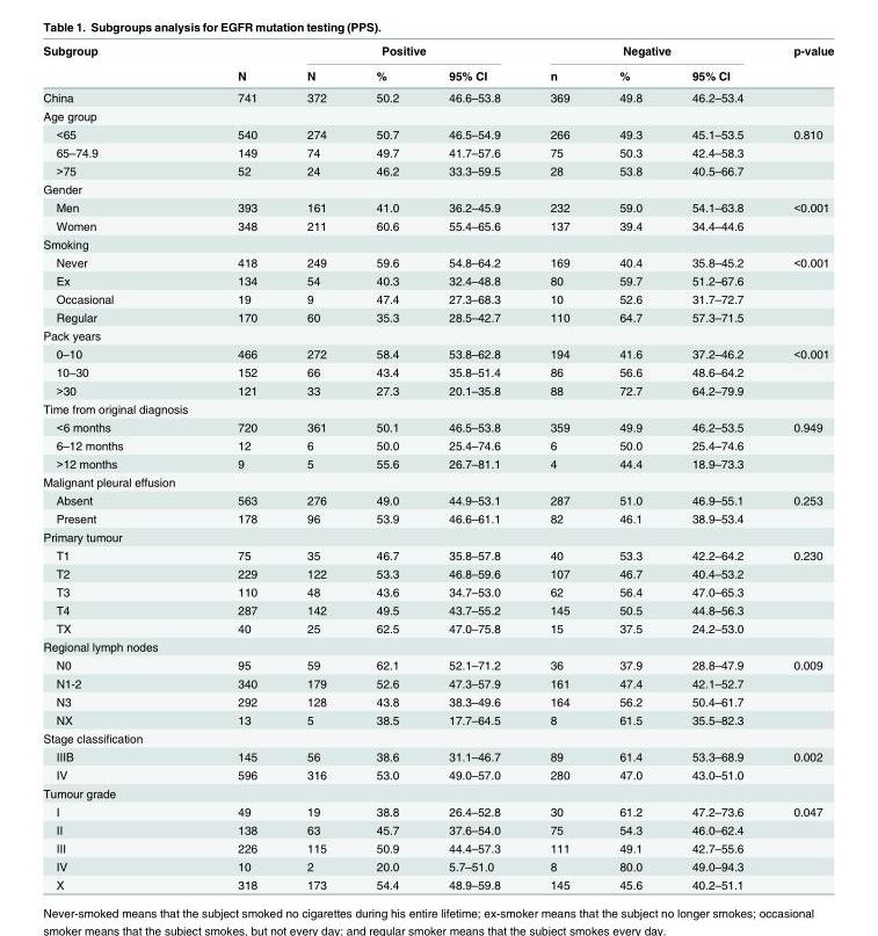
<table><thead><tr><td rowspan="2">Subgroup</td><td rowspan="2">N</td><td colspan="3">Positive</td><td colspan="3">Negative</td><td rowspan="2">p-value</td></tr><tr><td>N</td><td>%</td><td>95% CI</td><td>n</td><td>%</td><td>95% CI</td></tr></thead><tbody><tr><td>China</td><td>741</td><td>372</td><td>50.2</td><td>46.6–53.8</td><td>369</td><td>49.8</td><td>46.2–53.4</td><td></td></tr><tr><td colspan="9">Age group</td></tr><tr><td>&lt;65</td><td>540</td><td>274</td><td>50.7</td><td>46.5–54.9</td><td>266</td><td>49.3</td><td>45.1–53.5</td><td>0.810</td></tr><tr><td>65–74.9</td><td>149</td><td>74</td><td>49.7</td><td>41.7–57.6</td><td>75</td><td>50.3</td><td>42.4–58.3</td><td></td></tr><tr><td>&gt;75</td><td>52</td><td>24</td><td>46.2</td><td>33.3–59.5</td><td>28</td><td>53.8</td><td>40.5–66.7</td><td></td></tr><tr><td colspan="9">Gender</td></tr><tr><td>Men</td><td>393</td><td>161</td><td>41.0</td><td>36.2–45.9</td><td>232</td><td>59.0</td><td>54.1–63.8</td><td>&lt;0.001</td></tr><tr><td>Women</td><td>348</td><td>211</td><td>60.6</td><td>55.4–65.6</td><td>137</td><td>39.4</td><td>34.4–44.6</td><td></td></tr><tr><td colspan="9">Smoking</td></tr><tr><td>Never</td><td>418</td><td>249</td><td>59.6</td><td>54.8–64.2</td><td>169</td><td>40.4</td><td>35.8–45.2</td><td>&lt;0.001</td></tr><tr><td>Ex</td><td>134</td><td>54</td><td>40.3</td><td>32.4–48.8</td><td>80</td><td>59.7</td><td>51.2–67.6</td><td></td></tr><tr><td>Occasional</td><td>19</td><td>9</td><td>47.4</td><td>27.3–68.3</td><td>10</td><td>52.6</td><td>31.7–72.7</td><td></td></tr><tr><td>Regular</td><td>170</td><td>60</td><td>35.3</td><td>28.5–42.7</td><td>110</td><td>64.7</td><td>57.3–71.5</td><td></td></tr><tr><td colspan="9">Pack years</td></tr><tr><td>0–10</td><td>466</td><td>272</td><td>58.4</td><td>53.8–62.8</td><td>194</td><td>41.6</td><td>37.2–46.2</td><td>&lt;0.001</td></tr><tr><td>10–30</td><td>152</td><td>66</td><td>43.4</td><td>35.8–51.4</td><td>86</td><td>56.6</td><td>48.6–64.2</td><td></td></tr><tr><td>&gt;30</td><td>121</td><td>33</td><td>27.3</td><td>20.1–35.8</td><td>88</td><td>72.7</td><td>64.2–79.9</td><td></td></tr><tr><td colspan="9">Time from original diagnosis</td></tr><tr><td>&lt;6 months</td><td>720</td><td>361</td><td>50.1</td><td>46.5–53.8</td><td>359</td><td>49.9</td><td>46.2–53.5</td><td>0.949</td></tr><tr><td>6–12 months</td><td>12</td><td>6</td><td>50.0</td><td>25.4–74.6</td><td>6</td><td>50.0</td><td>25.4–74.6</td><td></td></tr><tr><td>&gt;12 months</td><td>9</td><td>5</td><td>55.6</td><td>26.7–81.1</td><td>4</td><td>44.4</td><td>18.9–73.3</td><td></td></tr><tr><td colspan="9">Malignant pleural effusion</td></tr><tr><td>Absent</td><td>563</td><td>276</td><td>49.0</td><td>44.9–53.1</td><td>287</td><td>51.0</td><td>46.9–55.1</td><td>0.253</td></tr><tr><td>Present</td><td>178</td><td>96</td><td>53.9</td><td>46.6–61.1</td><td>82</td><td>46.1</td><td>38.9–53.4</td><td></td></tr><tr><td colspan="9">Primary tumour</td></tr><tr><td>T1</td><td>75</td><td>35</td><td>46.7</td><td>35.8–57.8</td><td>40</td><td>53.3</td><td>42.2–64.2</td><td>0.230</td></tr><tr><td>T2</td><td>229</td><td>122</td><td>53.3</td><td>46.8–59.6</td><td>107</td><td>46.7</td><td>40.4–53.2</td><td></td></tr><tr><td>T3</td><td>110</td><td>48</td><td>43.6</td><td>34.7–53.0</td><td>62</td><td>56.4</td><td>47.0–65.3</td><td></td></tr><tr><td>T4</td><td>287</td><td>142</td><td>49.5</td><td>43.7–55.2</td><td>145</td><td>50.5</td><td>44.8–56.3</td><td></td></tr><tr><td>TX</td><td>40</td><td>25</td><td>62.5</td><td>47.0–75.8</td><td>15</td><td>37.5</td><td>24.2–53.0</td><td></td></tr><tr><td colspan="9">Regional lymph nodes</td></tr><tr><td>N0</td><td>95</td><td>59</td><td>62.1</td><td>52.1–71.2</td><td>36</td><td>37.9</td><td>28.8–47.9</td><td>0.009</td></tr><tr><td>N1-2</td><td>340</td><td>179</td><td>52.6</td><td>47.3–57.9</td><td>161</td><td>47.4</td><td>42.1–52.7</td><td></td></tr><tr><td>N3</td><td>292</td><td>128</td><td>43.8</td><td>38.3–49.6</td><td>164</td><td>56.2</td><td>50.4–61.7</td><td></td></tr><tr><td>NX</td><td>13</td><td>5</td><td>38.5</td><td>17.7–64.5</td><td>8</td><td>61.5</td><td>35.5–82.3</td><td></td></tr><tr><td colspan="9">Stage classification</td></tr><tr><td>IIIB</td><td>145</td><td>56</td><td>38.6</td><td>31.1–46.7</td><td>89</td><td>61.4</td><td>53.3–68.9</td><td>0.002</td></tr><tr><td>IV</td><td>596</td><td>316</td><td>53.0</td><td>49.0–57.0</td><td>280</td><td>47.0</td><td>43.0–51.0</td><td></td></tr><tr><td colspan="9">Tumour grade</td></tr><tr><td>I</td><td>49</td><td>19</td><td>38.8</td><td>26.4–52.8</td><td>30</td><td>61.2</td><td>47.2–73.6</td><td>0.047</td></tr><tr><td>II</td><td>138</td><td>63</td><td>45.7</td><td>37.6–54.0</td><td>75</td><td>54.3</td><td>46.0–62.4</td><td></td></tr><tr><td>III</td><td>226</td><td>115</td><td>50.9</td><td>44.4–57.3</td><td>111</td><td>49.1</td><td>42.7–55.6</td><td></td></tr><tr><td>IV</td><td>10</td><td>2</td><td>20.0</td><td>5.7–51.0</td><td>8</td><td>80.0</td><td>49.0–94.3</td><td></td></tr><tr><td>X</td><td>318</td><td>173</td><td>54.4</td><td>48.9–59.8</td><td>145</td><td>45.6</td><td>40.2–51.1</td><td></td></tr></tbody></table>